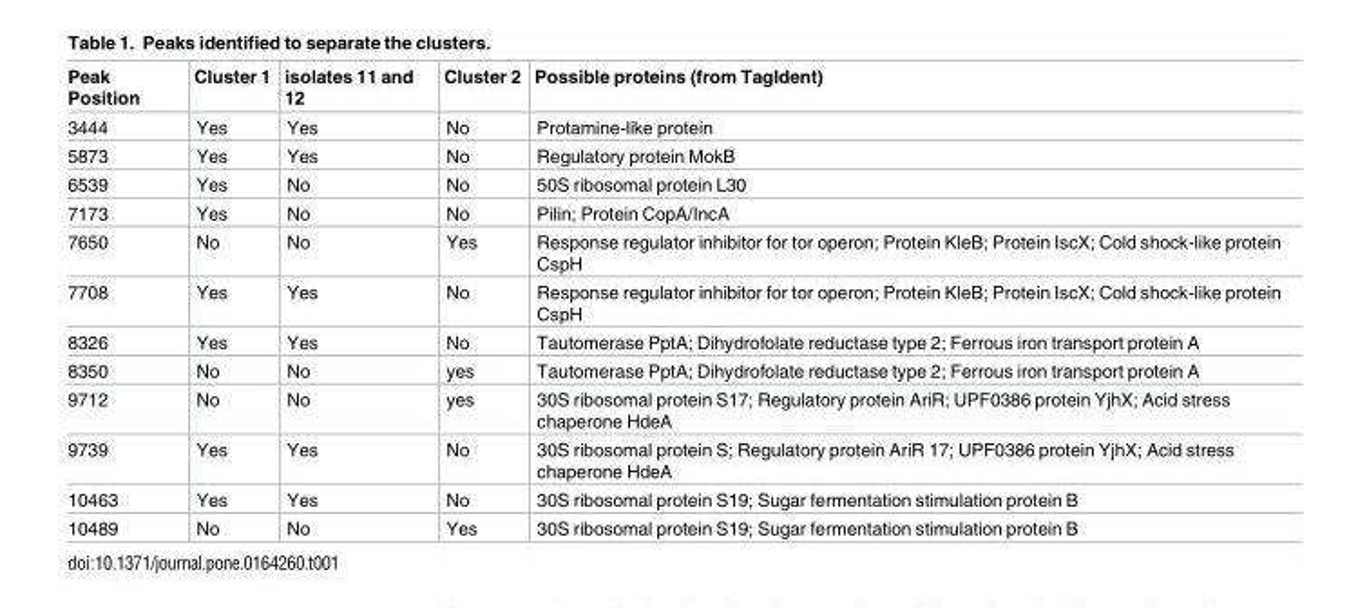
<table><thead><tr><td>Peak Position</td><td>Cluster 1</td><td>isolates 11 and 12</td><td>Cluster 2</td><td>Possible proteins (from TagIdent)</td></tr></thead><tbody><tr><td>3444</td><td>Yes</td><td>Yes</td><td>No</td><td>Protamine-like protein</td></tr><tr><td>5873</td><td>Yes</td><td>Yes</td><td>No</td><td>Regulatory protein MokB</td></tr><tr><td>6539</td><td>Yes</td><td>No</td><td>No</td><td>50S ribosomal protein L30</td></tr><tr><td>7173</td><td>Yes</td><td>No</td><td>No</td><td>Pilin; Protein CopA/IncA</td></tr><tr><td>7650</td><td>No</td><td>No</td><td>Yes</td><td>Response regulator inhibitor for tor operon; Protein KleB; Protein IscX; Cold shock-like protein CspH</td></tr><tr><td>7708</td><td>Yes</td><td>Yes</td><td>No</td><td>Response regulator inhibitor for tor operon; Protein KleB; Protein IscX; Cold shock-like protein CspH</td></tr><tr><td>8326</td><td>Yes</td><td>Yes</td><td>No</td><td>Tautomerase PptA; Dihydrofolate reductase type 2; Ferrous iron transport protein A</td></tr><tr><td>8350</td><td>No</td><td>No</td><td>yes</td><td>Tautomerase PptA; Dihydrofolate reductase type 2; Ferrous iron transport protein A</td></tr><tr><td>9712</td><td>No</td><td>No</td><td>yes</td><td>30S ribosomal protein S17; Regulatory protein AriR; UPF0386 protein YjhX; Acid stress chaperone HdeA</td></tr><tr><td>9739</td><td>Yes</td><td>Yes</td><td>No</td><td>30S ribosomal protein S; Regulatory protein AriR 17; UPF0386 protein YjhX; Acid stress chaperone HdeA</td></tr><tr><td>10463</td><td>Yes</td><td>Yes</td><td>No</td><td>30S ribosomal protein S19; Sugar fermentation stimulation protein B</td></tr><tr><td>10489</td><td>No</td><td>No</td><td>Yes</td><td>30S ribosomal protein S19; Sugar fermentation stimulation protein B</td></tr></tbody></table>